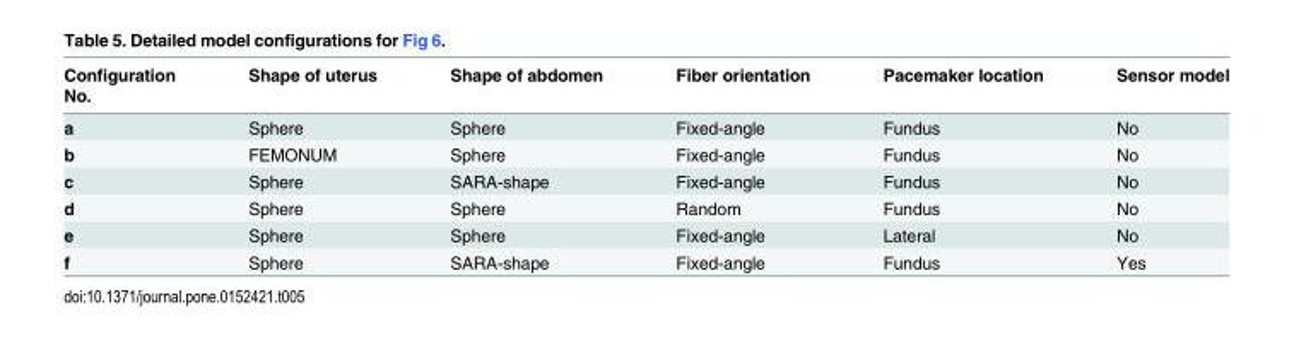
<table><thead><tr><td rowspan="2">Configuration No.</td><td rowspan="2">Shape of uterus</td><td rowspan="2">Shape of abdomen</td><td rowspan="2">Fiber orientation</td><td rowspan="2">Pacemaker location</td><td rowspan="2">Sensor model</td></tr><tr></tr></thead><tbody><tr><td>a</td><td>Sphere</td><td>Sphere</td><td>Fixed-angle</td><td>Fundus</td><td>No</td></tr><tr><td>b</td><td>FEMONUM</td><td>Sphere</td><td>Fixed-angle</td><td>Fundus</td><td>No</td></tr><tr><td>c</td><td>Sphere</td><td>SARA-shape</td><td>Fixed-angle</td><td>Fundus</td><td>No</td></tr><tr><td>d</td><td>Sphere</td><td>Sphere</td><td>Random</td><td>Fundus</td><td>No</td></tr><tr><td>e</td><td>Sphere</td><td>Sphere</td><td>Fixed-angle</td><td>Lateral</td><td>No</td></tr><tr><td>f</td><td>Sphere</td><td>SARA-shape</td><td>Fixed-angle</td><td>Fundus</td><td>Yes</td></tr></tbody></table>